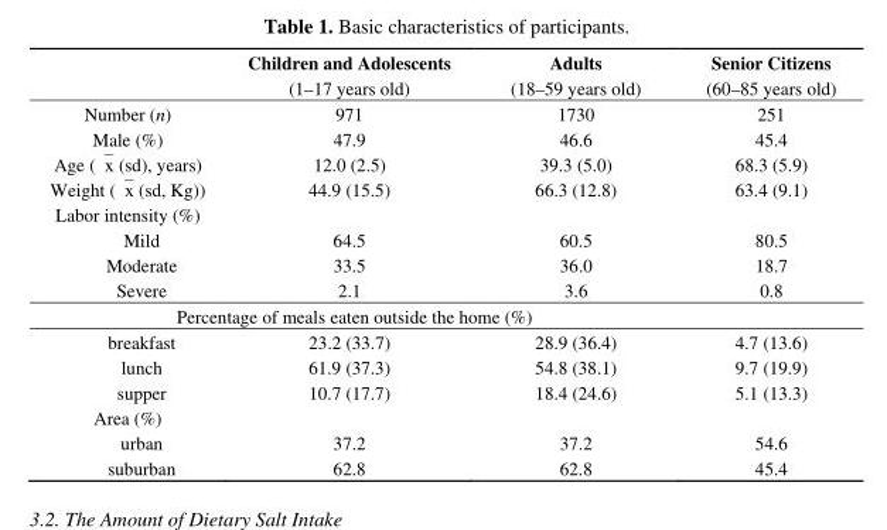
<table><thead><tr><td></td><td>Children and Adolescents (1–17 years old)</td><td>Adults (18–59 years old)</td><td>Senior Citizens (60–85 years old)</td></tr></thead><tbody><tr><td>Number (n)</td><td>971</td><td>1730</td><td>251</td></tr><tr><td>Male (%)</td><td>47.9</td><td>46.6</td><td>45.4</td></tr><tr><td>Age (x (sd), years)</td><td>12.0 (2.5)</td><td>39.3 (5.0)</td><td>68.3 (5.9)</td></tr><tr><td>Weight (x (sd, Kg))</td><td>44.9 (15.5)</td><td>66.3 (12.8)</td><td>63.4 (9.1)</td></tr><tr><td colspan="4">Labor intensity (%)</td></tr><tr><td>Mild</td><td>64.5</td><td>60.5</td><td>80.5</td></tr><tr><td>Moderate</td><td>33.5</td><td>36.0</td><td>18.7</td></tr><tr><td>Severe</td><td>2.1</td><td>3.6</td><td>0.8</td></tr><tr><td colspan="4">Percentage of meals eaten outside the home (%)</td></tr><tr><td>breakfast</td><td>23.2 (33.7)</td><td>28.9 (36.4)</td><td>4.7 (13.6)</td></tr><tr><td>lunch</td><td>61.9 (37.3)</td><td>54.8 (38.1)</td><td>9.7 (19.9)</td></tr><tr><td>supper</td><td>10.7 (17.7)</td><td>18.4 (24.6)</td><td>5.1 (13.3)</td></tr><tr><td colspan="4">Area (%)</td></tr><tr><td>urban</td><td>37.2</td><td>37.2</td><td>54.6</td></tr><tr><td>suburban</td><td>62.8</td><td>62.8</td><td>45.4</td></tr></tbody></table>